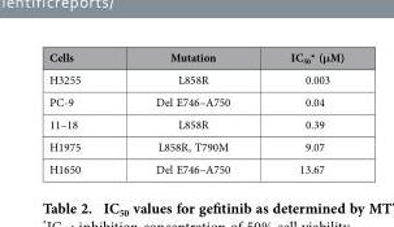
<table><thead><tr><td>Cells</td><td>Mutation</td><td>IC<sub>50</sub>* (μM)</td></tr></thead><tbody><tr><td>H3255</td><td>L858R</td><td>0.003</td></tr><tr><td>PC-9</td><td>Del E746–A750</td><td>0.04</td></tr><tr><td>11–18</td><td>L858R</td><td>0.39</td></tr><tr><td>H1975</td><td>L858R, T790M</td><td>9.07</td></tr><tr><td>H1650</td><td>Del E746–A750</td><td>13.67</td></tr></tbody></table>